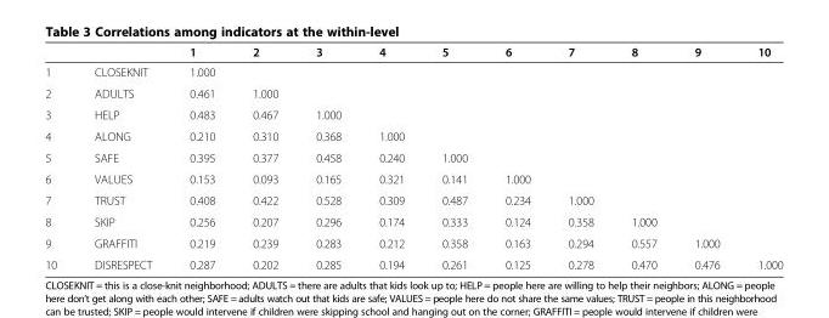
<table><thead><tr><td></td><td></td><td>1</td><td>2</td><td>3</td><td>4</td><td>5</td><td>6</td><td>7</td><td>8</td><td>9</td><td>10</td></tr></thead><tbody><tr><td>1</td><td>CLOSEKNIT</td><td>1.000</td><td></td><td></td><td></td><td></td><td></td><td></td><td></td><td></td><td></td></tr><tr><td>2</td><td>ADULTS</td><td>0.461</td><td>1.000</td><td></td><td></td><td></td><td></td><td></td><td></td><td></td><td></td></tr><tr><td>3</td><td>HELP</td><td>0.483</td><td>0.467</td><td>1.000</td><td></td><td></td><td></td><td></td><td></td><td></td><td></td></tr><tr><td>4</td><td>ALONG</td><td>0.210</td><td>0.310</td><td>0.368</td><td>1.000</td><td></td><td></td><td></td><td></td><td></td><td></td></tr><tr><td>5</td><td>SAFE</td><td>0.395</td><td>0.377</td><td>0.458</td><td>0.240</td><td>1.000</td><td></td><td></td><td></td><td></td><td></td></tr><tr><td>6</td><td>VALUES</td><td>0.153</td><td>0.093</td><td>0.165</td><td>0.321</td><td>0.141</td><td>1.000</td><td></td><td></td><td></td><td></td></tr><tr><td>7</td><td>TRUST</td><td>0.408</td><td>0.422</td><td>0.528</td><td>0.309</td><td>0.487</td><td>0.234</td><td>1.000</td><td></td><td></td><td></td></tr><tr><td>8</td><td>SKIP</td><td>0.256</td><td>0.207</td><td>0.296</td><td>0.174</td><td>0.333</td><td>0.124</td><td>0.358</td><td>1.000</td><td></td><td></td></tr><tr><td>9</td><td>GRAFFITI</td><td>0.219</td><td>0.239</td><td>0.283</td><td>0.212</td><td>0.358</td><td>0.163</td><td>0.294</td><td>0.557</td><td>1.000</td><td></td></tr><tr><td>10</td><td>DISRESPECT</td><td>0.287</td><td>0.202</td><td>0.285</td><td>0.194</td><td>0.261</td><td>0.125</td><td>0.278</td><td>0.470</td><td>0.476</td><td>1.000</td></tr></tbody></table>